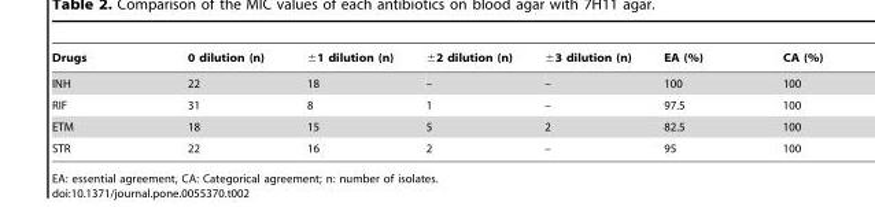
<table><thead><tr><td>Drugs</td><td>0 dilution (n)</td><td>±1 dilution (n)</td><td>±2 dilution (n)</td><td>±3 dilution (n)</td><td>EA (%)</td><td>CA (%)</td></tr></thead><tbody><tr><td>INH</td><td>22</td><td>18</td><td>–</td><td>–</td><td>100</td><td>100</td></tr><tr><td>RIF</td><td>31</td><td>8</td><td>1</td><td>–</td><td>97.5</td><td>100</td></tr><tr><td>ETM</td><td>18</td><td>15</td><td>5</td><td>2</td><td>82.5</td><td>100</td></tr><tr><td>STR</td><td>22</td><td>16</td><td>2</td><td>–</td><td>95</td><td>100</td></tr></tbody></table>